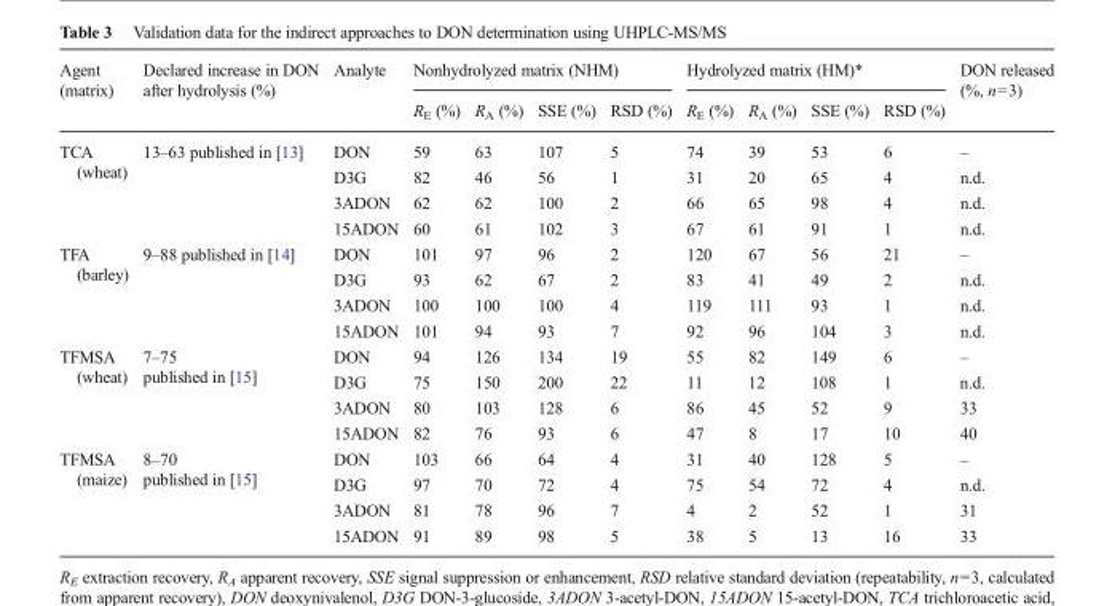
<table><thead><tr><td rowspan="2">Agent (matrix)</td><td rowspan="2">Declared increase in DON after hydrolysis (%)</td><td rowspan="2">Analyte</td><td colspan="4">Nonhydrolyzed matrix (NHM)</td><td colspan="4">Hydrolyzed matrix (HM)*</td><td rowspan="2">DON released (%, n=3)</td></tr><tr><td>R<sub>E</sub> (%)</td><td>R<sub>A</sub> (%)</td><td>SSE (%)</td><td>RSD (%)</td><td>R<sub>E</sub> (%)</td><td>R<sub>A</sub> (%)</td><td>SSE (%)</td><td>RSD (%)</td></tr></thead><tbody><tr><td rowspan="4">TCA (wheat)</td><td rowspan="4">13–63 published in [13]</td><td>DON</td><td>59</td><td>63</td><td>107</td><td>5</td><td>74</td><td>39</td><td>53</td><td>6</td><td>–</td></tr><tr><td>D3G</td><td>82</td><td>46</td><td>56</td><td>1</td><td>31</td><td>20</td><td>65</td><td>4</td><td>n.d.</td></tr><tr><td>3ADON</td><td>62</td><td>62</td><td>100</td><td>2</td><td>66</td><td>65</td><td>98</td><td>4</td><td>n.d.</td></tr><tr><td>15ADON</td><td>60</td><td>61</td><td>102</td><td>3</td><td>67</td><td>61</td><td>91</td><td>1</td><td>n.d.</td></tr><tr><td rowspan="4">TFA (barley)</td><td rowspan="4">9–88 published in [14]</td><td>DON</td><td>101</td><td>97</td><td>96</td><td>2</td><td>120</td><td>67</td><td>56</td><td>21</td><td>–</td></tr><tr><td>D3G</td><td>93</td><td>62</td><td>67</td><td>2</td><td>83</td><td>41</td><td>49</td><td>2</td><td>n.d.</td></tr><tr><td>3ADON</td><td>100</td><td>100</td><td>100</td><td>4</td><td>119</td><td>111</td><td>93</td><td>1</td><td>n.d.</td></tr><tr><td>15ADON</td><td>101</td><td>94</td><td>93</td><td>7</td><td>92</td><td>96</td><td>104</td><td>3</td><td>n.d.</td></tr><tr><td rowspan="4">TFMSA (wheat)</td><td rowspan="4">7–75 published in [15]</td><td>DON</td><td>94</td><td>126</td><td>134</td><td>19</td><td>55</td><td>82</td><td>149</td><td>6</td><td>–</td></tr><tr><td>D3G</td><td>75</td><td>150</td><td>200</td><td>22</td><td>11</td><td>12</td><td>108</td><td>1</td><td>n.d.</td></tr><tr><td>3ADON</td><td>80</td><td>103</td><td>128</td><td>6</td><td>86</td><td>45</td><td>52</td><td>9</td><td>33</td></tr><tr><td>15ADON</td><td>82</td><td>76</td><td>93</td><td>6</td><td>47</td><td>8</td><td>17</td><td>10</td><td>40</td></tr><tr><td rowspan="4">TFMSA (maize)</td><td rowspan="4">8–70 published in [15]</td><td>DON</td><td>103</td><td>66</td><td>64</td><td>4</td><td>31</td><td>40</td><td>128</td><td>5</td><td>–</td></tr><tr><td>D3G</td><td>97</td><td>70</td><td>72</td><td>4</td><td>75</td><td>54</td><td>72</td><td>4</td><td>n.d.</td></tr><tr><td>3ADON</td><td>81</td><td>78</td><td>96</td><td>7</td><td>4</td><td>2</td><td>52</td><td>1</td><td>31</td></tr><tr><td>15ADON</td><td>91</td><td>89</td><td>98</td><td>5</td><td>38</td><td>5</td><td>13</td><td>16</td><td>33</td></tr></tbody></table>